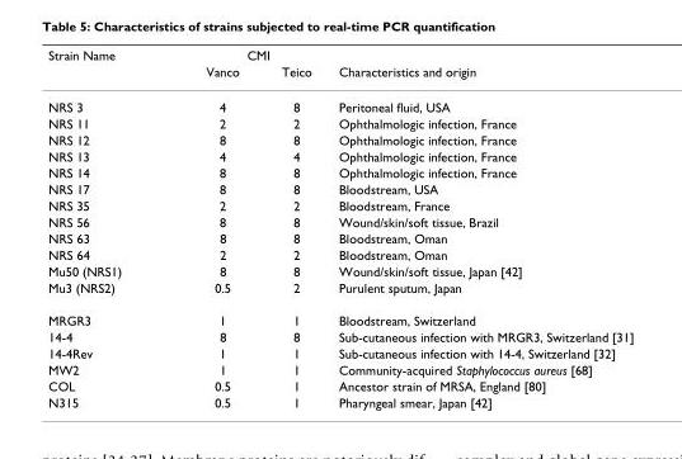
<table><thead><tr><td rowspan="2">Strain Name</td><td colspan="2">CMI</td><td rowspan="2">Characteristics and origin</td></tr><tr><td>Vanco</td><td>Teico</td></tr></thead><tbody><tr><td>NRS 3</td><td>4</td><td>8</td><td>Peritoneal fluid, USA</td></tr><tr><td>NRS 11</td><td>2</td><td>2</td><td>Ophthalmologic infection, France</td></tr><tr><td>NRS 12</td><td>8</td><td>8</td><td>Ophthalmologic infection, France</td></tr><tr><td>NRS 13</td><td>4</td><td>4</td><td>Ophthalmologic infection, France</td></tr><tr><td>NRS 14</td><td>8</td><td>8</td><td>Ophthalmologic infection, France</td></tr><tr><td>NRS 17</td><td>8</td><td>8</td><td>Bloodstream, USA</td></tr><tr><td>NRS 35</td><td>2</td><td>2</td><td>Bloodstream, France</td></tr><tr><td>NRS 56</td><td>8</td><td>8</td><td>Wound/skin/soft tissue, Brazil</td></tr><tr><td>NRS 63</td><td>8</td><td>8</td><td>Bloodstream, Oman</td></tr><tr><td>NRS 64</td><td>2</td><td>2</td><td>Bloodstream, Oman</td></tr><tr><td>Mu50 (NRS1)</td><td>8</td><td>8</td><td>Wound/skin/soft tissue, Japan [42]</td></tr><tr><td>Mu3 (NRS2)</td><td>0.5</td><td>2</td><td>Purulent sputum, Japan</td></tr><tr><td>MRGR3</td><td>1</td><td>1</td><td>Bloodstream, Switzerland</td></tr><tr><td>14-4</td><td>8</td><td>8</td><td>Sub-cutaneous infection with MRGR3, Switzerland [31]</td></tr><tr><td>14-4Rev</td><td>1</td><td>1</td><td>Sub-cutaneous infection with 14-4, Switzerland [32]</td></tr><tr><td>MW2</td><td>1</td><td>1</td><td>Community-acquired Staphylococcus aureus [68]</td></tr><tr><td>COL</td><td>0.5</td><td>1</td><td>Ancestor strain of MRSA, England [80]</td></tr><tr><td>N315</td><td>0.5</td><td>1</td><td>Pharyngeal smear, Japan [42]</td></tr></tbody></table>